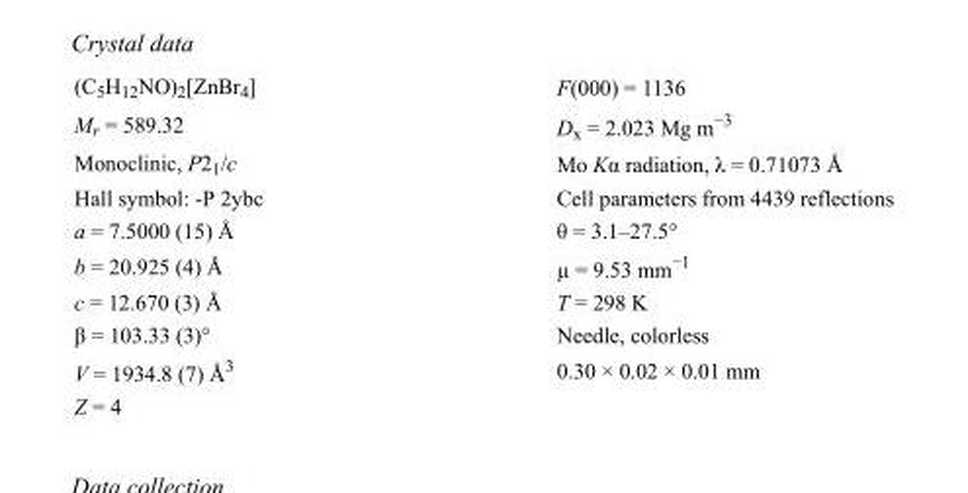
<table><tbody><tr><td>(C<sub>5</sub>H<sub>12</sub>NO)<sub>2</sub>[ZnBr<sub>4</sub>]</td><td>F(000) = 1136</td></tr><tr><td>M<sub>r</sub> = 589.32</td><td>D<sub>x</sub> = 2.023 Mg m<sup>−3</sup></td></tr><tr><td>Monoclinic, P2<sub>1</sub>/c</td><td>Mo Kα radiation, λ = 0.71073 Å</td></tr><tr><td>Hall symbol: -P 2ybc</td><td>Cell parameters from 4439 reflections</td></tr><tr><td>a = 7.5000 (15) Å</td><td>θ = 3.1–27.5°</td></tr><tr><td>b = 20.925 (4) Å</td><td>µ = 9.53 mm<sup>−1</sup></td></tr><tr><td>c = 12.670 (3) Å</td><td>T = 298 K</td></tr><tr><td>β = 103.33 (3)°</td><td>Needle, colorless</td></tr><tr><td>V = 1934.8 (7) Å<sup>3</sup></td><td>0.30 × 0.02 × 0.01 mm</td></tr><tr><td>Z = 4</td><td></td></tr></tbody></table>